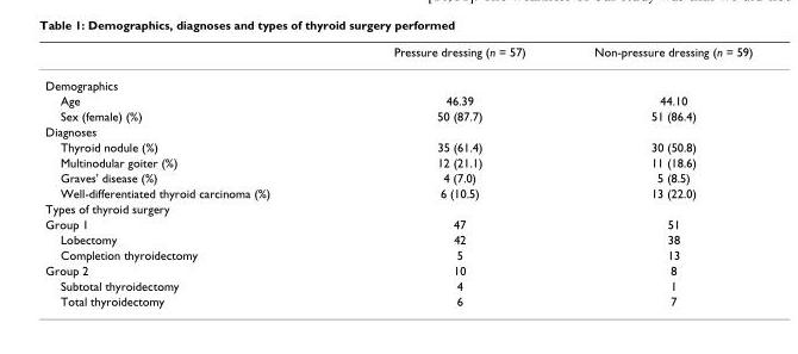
<table><thead><tr><td></td><td>Pressure dressing (n = 57)</td><td>Non-pressure dressing (n = 59)</td></tr></thead><tbody><tr><td colspan="3">Demographics</td></tr><tr><td>Age</td><td>46.39</td><td>44.10</td></tr><tr><td>Sex (female) (%)</td><td>50 (87.7)</td><td>51 (86.4)</td></tr><tr><td colspan="3">Diagnoses</td></tr><tr><td>Thyroid nodule (%)</td><td>35 (61.4)</td><td>30 (50.8)</td></tr><tr><td>Multinodular goiter (%)</td><td>12 (21.1)</td><td>11 (18.6)</td></tr><tr><td>Graves&#x27; disease (%)</td><td>4 (7.0)</td><td>5 (8.5)</td></tr><tr><td>Well-differentiated thyroid carcinoma (%)</td><td>6 (10.5)</td><td>13 (22.0)</td></tr><tr><td colspan="3">Types of thyroid surgery</td></tr><tr><td>Group 1</td><td>47</td><td>51</td></tr><tr><td>Lobectomy</td><td>42</td><td>38</td></tr><tr><td>Completion thyroidectomy</td><td>5</td><td>13</td></tr><tr><td>Group 2</td><td>10</td><td>8</td></tr><tr><td>Subtotal thyroidectomy</td><td>4</td><td>1</td></tr><tr><td>Total thyroidectomy</td><td>6</td><td>7</td></tr></tbody></table>